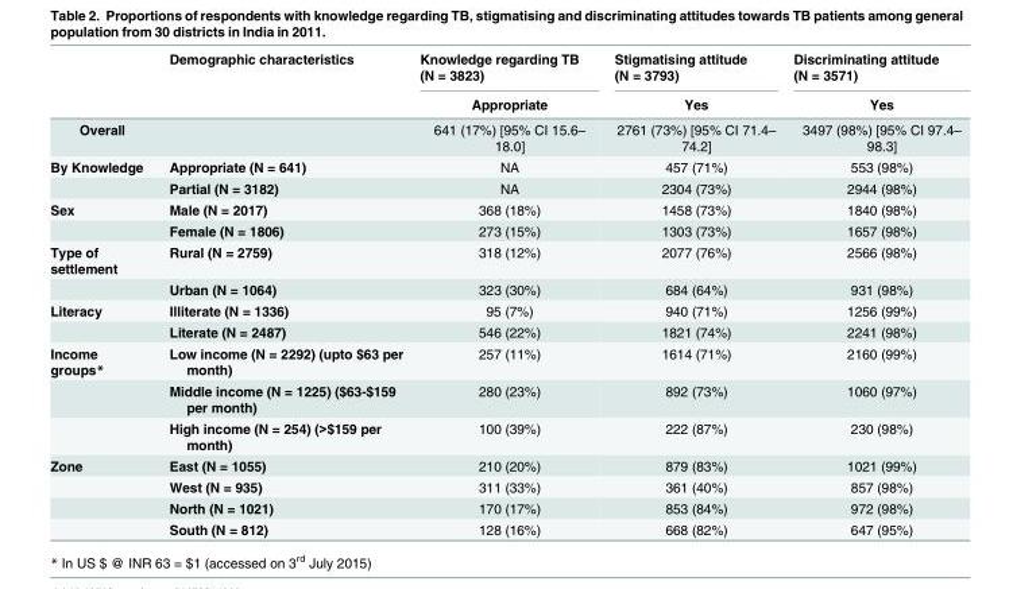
<table><thead><tr><td rowspan="2"></td><td rowspan="2">Demographic characteristics</td><td rowspan="2">Knowledge regarding TB (N = 3823) Appropriate</td><td rowspan="2">Stigmatising attitude (N = 3793) Yes</td><td rowspan="2">Discriminating attitude (N = 3571) Yes</td></tr><tr></tr></thead><tbody><tr><td>Overall</td><td></td><td>641 (17%) [95% CI 15.6– 18.0]</td><td>2761 (73%) [95% CI 71.4– 74.2]</td><td>3497 (98%) [95% CI 97.4– 98.3]</td></tr><tr><td rowspan="2">By Knowledge</td><td>Appropriate (N = 641)</td><td>NA</td><td>457 (71%)</td><td>553 (98%)</td></tr><tr><td>Partial (N = 3182)</td><td>NA</td><td>2304 (73%)</td><td>2944 (98%)</td></tr><tr><td rowspan="2">Sex</td><td>Male (N = 2017)</td><td>368 (18%)</td><td>1458 (73%)</td><td>1840 (98%)</td></tr><tr><td>Female (N = 1806)</td><td>273 (15%)</td><td>1303 (73%)</td><td>1657 (98%)</td></tr><tr><td rowspan="2">Type of settlement</td><td>Rural (N = 2759)</td><td>318 (12%)</td><td>2077 (76%)</td><td>2566 (98%)</td></tr><tr><td>Urban (N = 1064)</td><td>323 (30%)</td><td>684 (64%)</td><td>931 (98%)</td></tr><tr><td rowspan="2">Literacy</td><td>Illiterate (N = 1336)</td><td>95 (7%)</td><td>940 (71%)</td><td>1256 (99%)</td></tr><tr><td>Literate (N = 2487)</td><td>546 (22%)</td><td>1821 (74%)</td><td>2241 (98%)</td></tr><tr><td rowspan="3">Income groups*</td><td>Low income (N = 2292) (upto $63 per month)</td><td>257 (11%)</td><td>1614 (71%)</td><td>2160 (99%)</td></tr><tr><td>Middle income (N = 1225) ($63-$159 per month)</td><td>280 (23%)</td><td>892 (73%)</td><td>1060 (97%)</td></tr><tr><td>High income (N = 254) (&gt;$159 per month)</td><td>100 (39%)</td><td>222 (87%)</td><td>230 (98%)</td></tr><tr><td rowspan="4">Zone</td><td>East (N = 1055)</td><td>210 (20%)</td><td>879 (83%)</td><td>1021 (99%)</td></tr><tr><td>West (N = 935)</td><td>311 (33%)</td><td>361 (40%)</td><td>857 (98%)</td></tr><tr><td>North (N = 1021)</td><td>170 (17%)</td><td>853 (84%)</td><td>972 (98%)</td></tr><tr><td>South (N = 812)</td><td>128 (16%)</td><td>668 (82%)</td><td>647 (95%)</td></tr></tbody></table>